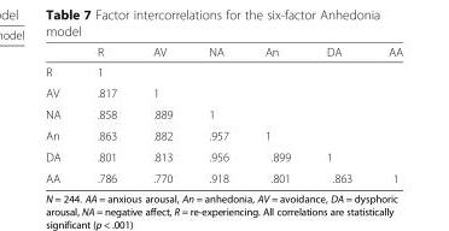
<table><thead><tr><td></td><td>R</td><td>AV</td><td>NA</td><td>An</td><td>DA</td><td>AA</td></tr></thead><tbody><tr><td>R</td><td>1</td><td></td><td></td><td></td><td></td><td></td></tr><tr><td>AV</td><td>.817</td><td>1</td><td></td><td></td><td></td><td></td></tr><tr><td>NA</td><td>.858</td><td>.889</td><td>1</td><td></td><td></td><td></td></tr><tr><td>An</td><td>.863</td><td>.882</td><td>.957</td><td>1</td><td></td><td></td></tr><tr><td>DA</td><td>.801</td><td>.813</td><td>.956</td><td>.899</td><td>1</td><td></td></tr><tr><td>AA</td><td>.786</td><td>.770</td><td>.918</td><td>.801</td><td>.863</td><td>1</td></tr></tbody></table>